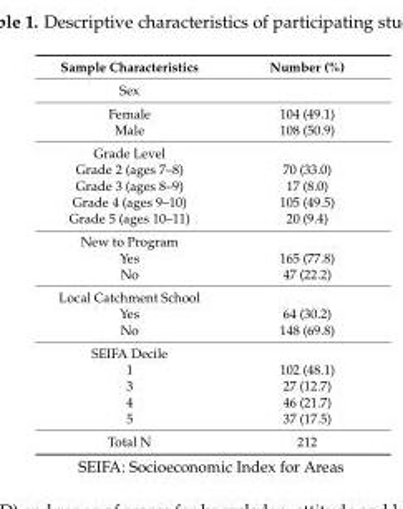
<table><thead><tr><td>Sample Characteristics</td><td>Number (%)</td></tr></thead><tbody><tr><td colspan="2">Sex</td></tr><tr><td>Female</td><td>104 (49.1)</td></tr><tr><td>Male</td><td>108 (50.9)</td></tr><tr><td colspan="2">Grade Level</td></tr><tr><td>Grade 2 (ages 7–8)</td><td>70 (33.0)</td></tr><tr><td>Grade 3 (ages 8–9)</td><td>17 (8.0)</td></tr><tr><td>Grade 4 (ages 9–10)</td><td>105 (49.5)</td></tr><tr><td>Grade 5 (ages 10–11)</td><td>20 (9.4)</td></tr><tr><td colspan="2">New to Program</td></tr><tr><td>Yes</td><td>165 (77.8)</td></tr><tr><td>No</td><td>47 (22.2)</td></tr><tr><td colspan="2">Local Catchment School</td></tr><tr><td>Yes</td><td>64 (30.2)</td></tr><tr><td>No</td><td>148 (69.8)</td></tr><tr><td colspan="2">SEIFA Decile</td></tr><tr><td>1</td><td>102 (48.1)</td></tr><tr><td>3</td><td>27 (12.7)</td></tr><tr><td>4</td><td>46 (21.7)</td></tr><tr><td>5</td><td>37 (17.5)</td></tr><tr><td>Total N</td><td>212</td></tr></tbody></table>